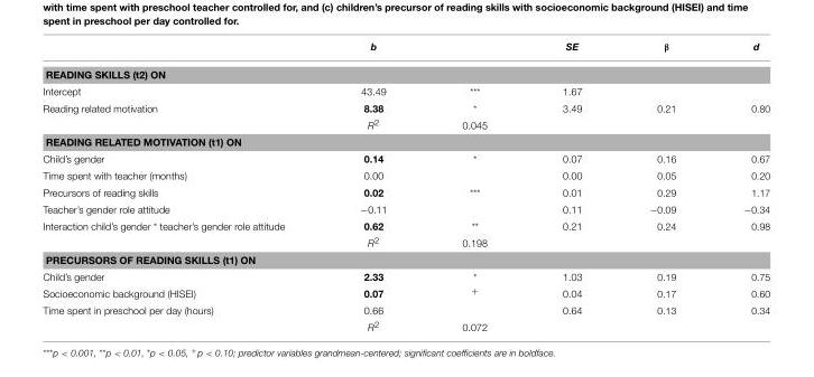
<table><thead><tr><td></td><td>b</td><td></td><td>SE</td><td>β</td><td>d</td></tr></thead><tbody><tr><td colspan="6">READING SKILLS (t2) ON</td></tr><tr><td>Intercept</td><td>43.49</td><td>***</td><td>1.67</td><td></td><td></td></tr><tr><td rowspan="2">Reading related motivation</td><td>8.38</td><td>*</td><td>3.49</td><td>0.21</td><td>0.80</td></tr><tr><td>R<sup>2</sup></td><td>0.045</td><td></td><td></td><td></td></tr><tr><td colspan="6">READING RELATED MOTIVATION (t1) ON</td></tr><tr><td>Child’s gender</td><td>0.14</td><td>*</td><td>0.07</td><td>0.16</td><td>0.67</td></tr><tr><td>Time spent with teacher (months)</td><td>0.00</td><td></td><td>0.00</td><td>0.05</td><td>0.20</td></tr><tr><td>Precursors of reading skills</td><td>0.02</td><td>***</td><td>0.01</td><td>0.29</td><td>1.17</td></tr><tr><td>Teacher’s gender role attitude</td><td>−0.11</td><td></td><td>0.11</td><td>−0.09</td><td>−0.34</td></tr><tr><td rowspan="2">Interaction child’s gender * teacher’s gender role attitude</td><td>0.62</td><td>**</td><td>0.21</td><td>0.24</td><td>0.98</td></tr><tr><td>R<sup>2</sup></td><td>0.198</td><td></td><td></td><td></td></tr><tr><td colspan="6">PRECURSORS OF READING SKILLS (t1) ON</td></tr><tr><td>Child’s gender</td><td>2.33</td><td>*</td><td>1.03</td><td>0.19</td><td>0.75</td></tr><tr><td>Socioeconomic background (HISEI)</td><td>0.07</td><td><sup>+</sup></td><td>0.04</td><td>0.17</td><td>0.60</td></tr><tr><td rowspan="2">Time spent in preschool per day (hours)</td><td>0.66</td><td></td><td>0.64</td><td>0.13</td><td>0.34</td></tr><tr><td>R<sup>2</sup></td><td>0.072</td><td></td><td></td><td></td></tr></tbody></table>